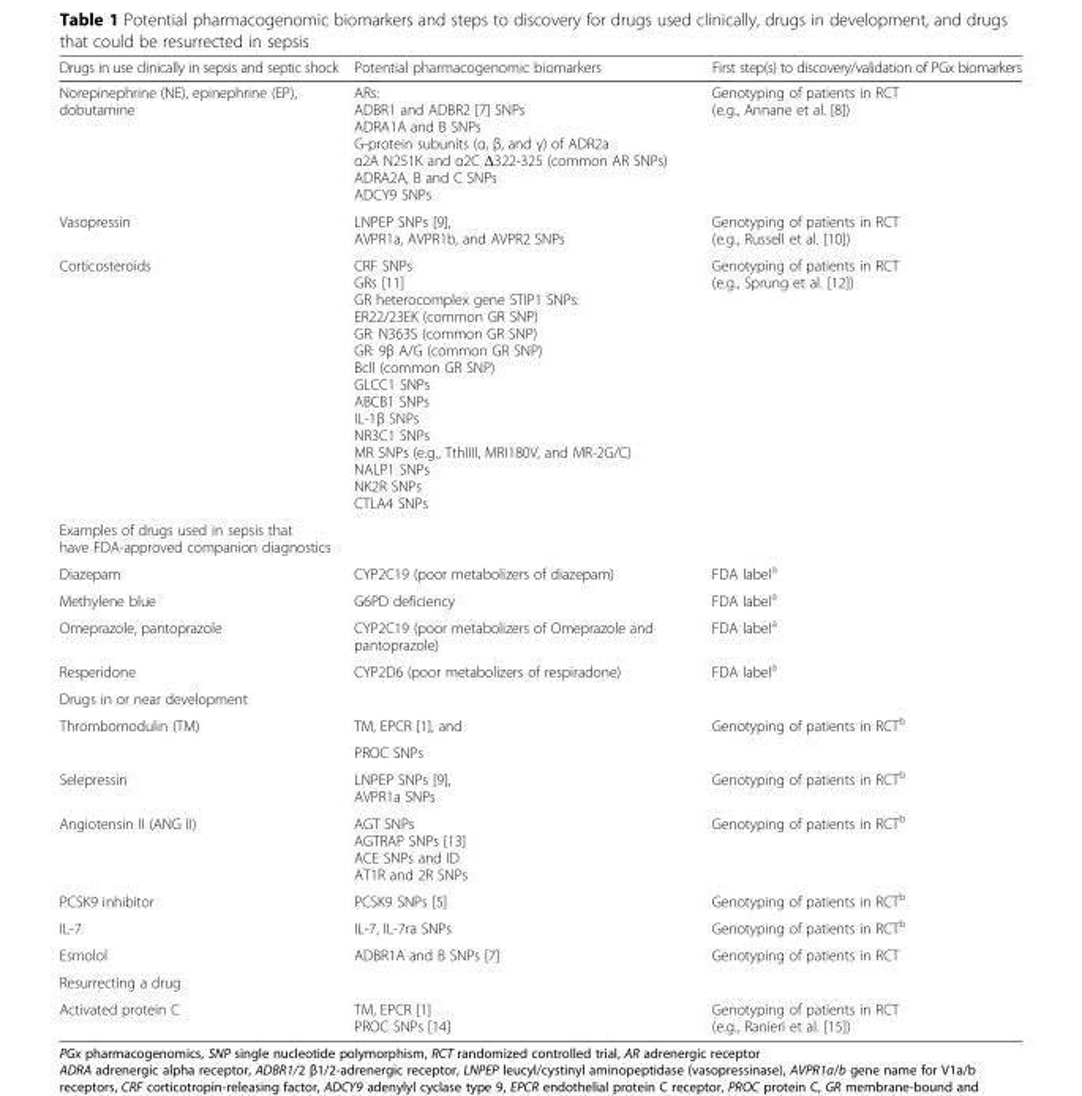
<table><thead><tr><td>Drugs in use clinically in sepsis and septic shock</td><td>Potential pharmacogenomic biomarkers</td><td>First step(s) to discovery/validation of PGx biomarkers</td></tr></thead><tbody><tr><td>Norepinephrine (NE), epinephrine (EP), dobutamine</td><td>ARs: ADBR1 and ADBR2 [7] SNPs ADRA1A and B SNPs G-protein subunits (α, β, and γ) of ADR2a α2A N251K and α2C Δ322-325 (common AR SNPs) ADRA2A, B and C SNPs ADCY9 SNPs</td><td>Genotyping of patients in RCT (e.g., Annane et al. [8])</td></tr><tr><td>Vasopressin</td><td>LNPEP SNPs [9], AVPR1a, AVPR1b, and AVPR2 SNPs</td><td>Genotyping of patients in RCT (e.g., Russell et al. [10])</td></tr><tr><td>Corticosteroids</td><td>CRF SNPs GRs [11] GR heterocomplex gene STIP1 SNPs: ER22/23EK (common GR SNP) GR: N363S (common GR SNP) GR: 9β A/G (common GR SNP) Bcll (common GR SNP) GLCC1 SNPs ABCB1 SNPs IL-1β SNPs NR3C1 SNPs MR SNPs (e.g., TthIIII, MRI180V, and MR-2G/C) NALP1 SNPs NK2R SNPs CTLA4 SNPs</td><td>Genotyping of patients in RCT (e.g., Sprung et al. [12])</td></tr><tr><td colspan="3">Examples of drugs used in sepsis that have FDA-approved companion diagnostics</td></tr><tr><td>Diazepam</td><td>CYP2C19 (poor metabolizers of diazepam)</td><td>FDA label<sup>a</sup></td></tr><tr><td>Methylene blue</td><td>G6PD deficiency</td><td>FDA label<sup>a</sup></td></tr><tr><td>Omeprazole, pantoprazole</td><td>CYP2C19 (poor metabolizers of Omeprazole and pantoprazole)</td><td>FDA label<sup>a</sup></td></tr><tr><td>Resperidone</td><td>CYP2D6 (poor metabolizers of respiradone)</td><td>FDA label<sup>a</sup></td></tr><tr><td colspan="3">Drugs in or near development</td></tr><tr><td rowspan="2">Thrombomodulin (TM)</td><td>TM, EPCR [1], and</td><td rowspan="2">Genotyping of patients in RCT<sup>b</sup></td></tr><tr><td>PROC SNPs</td></tr><tr><td>Selepressin</td><td>LNPEP SNPs [9], AVPR1a SNPs</td><td>Genotyping of patients in RCT<sup>b</sup></td></tr><tr><td>Angiotensin II (ANG II)</td><td>AGT SNPs AGTRAP SNPs [13] ACE SNPs and ID AT1R and 2R SNPs</td><td>Genotyping of patients in RCT<sup>b</sup></td></tr><tr><td>PCSK9 inhibitor</td><td>PCSK9 SNPs [5]</td><td>Genotyping of patients in RCT<sup>b</sup></td></tr><tr><td>IL-7</td><td>IL-7, IL-7ra SNPs</td><td>Genotyping of patients in RCT<sup>b</sup></td></tr><tr><td>Esmolol</td><td>ADBR1A and B SNPs [7]</td><td>Genotyping of patients in RCT</td></tr><tr><td colspan="3">Resurrecting a drug</td></tr><tr><td>Activated protein C</td><td>TM, EPCR [1] PROC SNPs [14]</td><td>Genotyping of patients in RCT (e.g., Ranieri et al. [15])</td></tr></tbody></table>